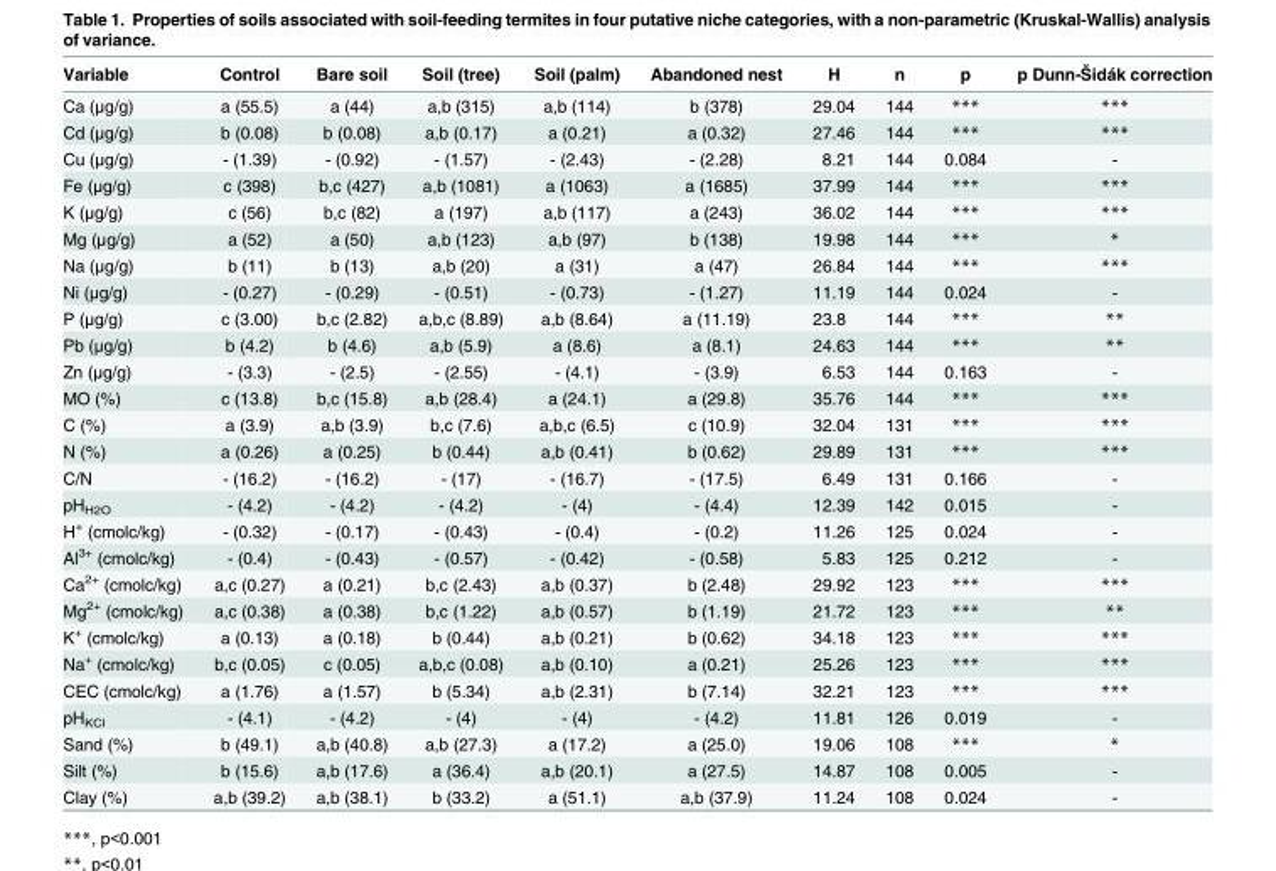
<table><thead><tr><td>Variable</td><td>Control</td><td>Bare soil</td><td>Soil (tree)</td><td>Soil (palm)</td><td>Abandoned nest</td><td>H</td><td>n</td><td>p</td><td>p Dunn-Šidák correction</td></tr></thead><tbody><tr><td>Ca (μg/g)</td><td>a (55.5)</td><td>a (44)</td><td>a,b (315)</td><td>a,b (114)</td><td>b (378)</td><td>29.04</td><td>144</td><td>***</td><td>***</td></tr><tr><td>Cd (μg/g)</td><td>b (0.08)</td><td>b (0.08)</td><td>a,b (0.17)</td><td>a (0.21)</td><td>a (0.32)</td><td>27.46</td><td>144</td><td>***</td><td>***</td></tr><tr><td>Cu (μg/g)</td><td>- (1.39)</td><td>- (0.92)</td><td>- (1.57)</td><td>- (2.43)</td><td>- (2.28)</td><td>8.21</td><td>144</td><td>0.084</td><td>-</td></tr><tr><td>Fe (μg/g)</td><td>c (398)</td><td>b,c (427)</td><td>a,b (1081)</td><td>a (1063)</td><td>a (1685)</td><td>37.99</td><td>144</td><td>***</td><td>***</td></tr><tr><td>K (μg/g)</td><td>c (56)</td><td>b,c (82)</td><td>a (197)</td><td>a,b (117)</td><td>a (243)</td><td>36.02</td><td>144</td><td>***</td><td>***</td></tr><tr><td>Mg (μg/g)</td><td>a (52)</td><td>a (50)</td><td>a,b (123)</td><td>a,b (97)</td><td>b (138)</td><td>19.98</td><td>144</td><td>***</td><td>*</td></tr><tr><td>Na (μg/g)</td><td>b (11)</td><td>b (13)</td><td>a,b (20)</td><td>a (31)</td><td>a (47)</td><td>26.84</td><td>144</td><td>***</td><td>***</td></tr><tr><td>Ni (μg/g)</td><td>- (0.27)</td><td>- (0.29)</td><td>- (0.51)</td><td>- (0.73)</td><td>- (1.27)</td><td>11.19</td><td>144</td><td>0.024</td><td>-</td></tr><tr><td>P (μg/g)</td><td>c (3.00)</td><td>b,c (2.82)</td><td>a,b,c (8.89)</td><td>a,b (8.64)</td><td>a (11.19)</td><td>23.8</td><td>144</td><td>***</td><td>**</td></tr><tr><td>Pb (μg/g)</td><td>b (4.2)</td><td>b (4.6)</td><td>a,b (5.9)</td><td>a (8.6)</td><td>a (8.1)</td><td>24.63</td><td>144</td><td>***</td><td>**</td></tr><tr><td>Zn (μg/g)</td><td>- (3.3)</td><td>- (2.5)</td><td>- (2.55)</td><td>- (4.1)</td><td>- (3.9)</td><td>6.53</td><td>144</td><td>0.163</td><td>-</td></tr><tr><td>MO (%)</td><td>c (13.8)</td><td>b,c (15.8)</td><td>a,b (28.4)</td><td>a (24.1)</td><td>a (29.8)</td><td>35.76</td><td>144</td><td>***</td><td>***</td></tr><tr><td>C (%)</td><td>a (3.9)</td><td>a,b (3.9)</td><td>b,c (7.6)</td><td>a,b,c (6.5)</td><td>c (10.9)</td><td>32.04</td><td>131</td><td>***</td><td>***</td></tr><tr><td>N (%)</td><td>a (0.26)</td><td>a (0.25)</td><td>b (0.44)</td><td>a,b (0.41)</td><td>b (0.62)</td><td>29.89</td><td>131</td><td>***</td><td>***</td></tr><tr><td>C/N</td><td>- (16.2)</td><td>- (16.2)</td><td>- (17)</td><td>- (16.7)</td><td>- (17.5)</td><td>6.49</td><td>131</td><td>0.166</td><td>-</td></tr><tr><td>pH<sub>H2O</sub></td><td>- (4.2)</td><td>- (4.2)</td><td>- (4.2)</td><td>- (4)</td><td>- (4.4)</td><td>12.39</td><td>142</td><td>0.015</td><td>-</td></tr><tr><td>H<sup>+</sup> (cmolc/kg)</td><td>- (0.32)</td><td>- (0.17)</td><td>- (0.43)</td><td>- (0.4)</td><td>- (0.2)</td><td>11.26</td><td>125</td><td>0.024</td><td>-</td></tr><tr><td>Al<sup>3+</sup> (cmolc/kg)</td><td>- (0.4)</td><td>- (0.43)</td><td>- (0.57)</td><td>- (0.42)</td><td>- (0.58)</td><td>5.83</td><td>125</td><td>0.212</td><td>-</td></tr><tr><td>Ca<sup>2+</sup> (cmolc/kg)</td><td>a,c (0.27)</td><td>a (0.21)</td><td>b,c (2.43)</td><td>a,b (0.37)</td><td>b (2.48)</td><td>29.92</td><td>123</td><td>***</td><td>***</td></tr><tr><td>Mg<sup>2+</sup> (cmolc/kg)</td><td>a,c (0.38)</td><td>a (0.38)</td><td>b,c (1.22)</td><td>a,b (0.57)</td><td>b (1.19)</td><td>21.72</td><td>123</td><td>***</td><td>**</td></tr><tr><td>K<sup>+</sup> (cmolc/kg)</td><td>a (0.13)</td><td>a (0.18)</td><td>b (0.44)</td><td>a,b (0.21)</td><td>b (0.62)</td><td>34.18</td><td>123</td><td>***</td><td>***</td></tr><tr><td>Na<sup>+</sup> (cmolc/kg)</td><td>b,c (0.05)</td><td>c (0.05)</td><td>a,b,c (0.08)</td><td>a,b (0.10)</td><td>a (0.21)</td><td>25.26</td><td>123</td><td>***</td><td>***</td></tr><tr><td>CEC (cmolc/kg)</td><td>a (1.76)</td><td>a (1.57)</td><td>b (5.34)</td><td>a,b (2.31)</td><td>b (7.14)</td><td>32.21</td><td>123</td><td>***</td><td>***</td></tr><tr><td>pH<sub>KCl</sub></td><td>- (4.1)</td><td>- (4.2)</td><td>- (4)</td><td>- (4)</td><td>- (4.2)</td><td>11.81</td><td>126</td><td>0.019</td><td>-</td></tr><tr><td>Sand (%)</td><td>b (49.1)</td><td>a,b (40.8)</td><td>a,b (27.3)</td><td>a (17.2)</td><td>a (25.0)</td><td>19.06</td><td>108</td><td>***</td><td>*</td></tr><tr><td>Silt (%)</td><td>b (15.6)</td><td>a,b (17.6)</td><td>a (36.4)</td><td>a,b (20.1)</td><td>a (27.5)</td><td>14.87</td><td>108</td><td>0.005</td><td>-</td></tr><tr><td>Clay (%)</td><td>a,b (39.2)</td><td>a,b (38.1)</td><td>b (33.2)</td><td>a (51.1)</td><td>a,b (37.9)</td><td>11.24</td><td>108</td><td>0.024</td><td>-</td></tr></tbody></table>